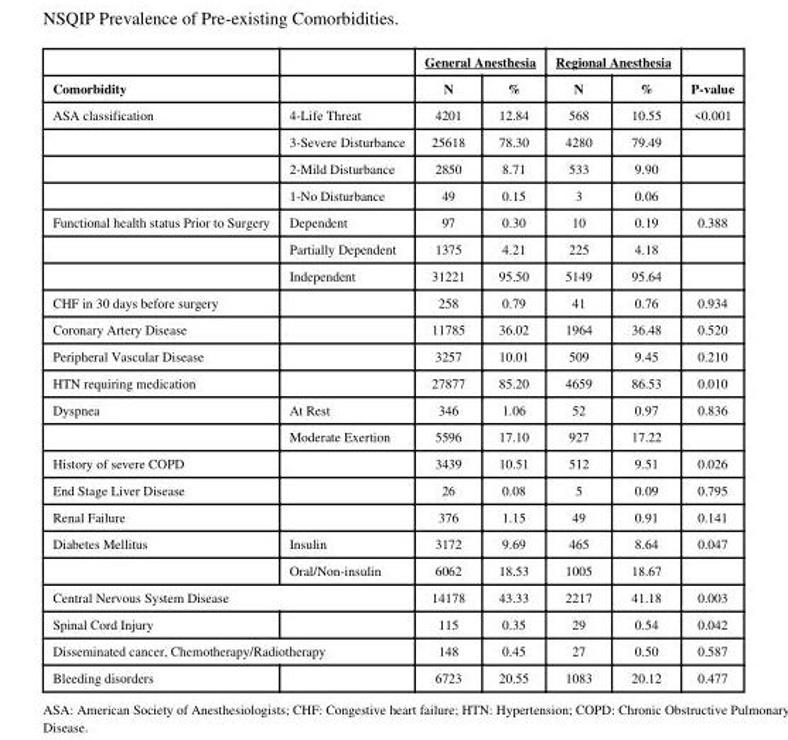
<table><thead><tr><td rowspan="2">Comorbidity</td><td rowspan="2"></td><td colspan="2">General Anesthesia</td><td colspan="2">Regional Anesthesia</td><td rowspan="2">P-value</td></tr><tr><td>N</td><td>%</td><td>N</td><td>%</td></tr></thead><tbody><tr><td rowspan="4">ASA classification</td><td>4-Life Threat</td><td>4201</td><td>12.84</td><td>568</td><td>10.55</td><td>&lt;0.001</td></tr><tr><td>3-Severe Disturbance</td><td>25618</td><td>78.30</td><td>4280</td><td>79.49</td><td></td></tr><tr><td>2-Mild Disturbance</td><td>2850</td><td>8.71</td><td>533</td><td>9.90</td><td></td></tr><tr><td>1-No Disturbance</td><td>49</td><td>0.15</td><td>3</td><td>0.06</td><td></td></tr><tr><td rowspan="3">Functional health status Prior to Surgery</td><td>Dependent</td><td>97</td><td>0.30</td><td>10</td><td>0.19</td><td>0.388</td></tr><tr><td>Partially Dependent</td><td>1375</td><td>4.21</td><td>225</td><td>4.18</td><td></td></tr><tr><td>Independent</td><td>31221</td><td>95.50</td><td>5149</td><td>95.64</td><td></td></tr><tr><td>CHF in 30 days before surgery</td><td></td><td>258</td><td>0.79</td><td>41</td><td>0.76</td><td>0.934</td></tr><tr><td>Coronary Artery Disease</td><td></td><td>11785</td><td>36.02</td><td>1964</td><td>36.48</td><td>0.520</td></tr><tr><td>Peripheral Vascular Disease</td><td></td><td>3257</td><td>10.01</td><td>509</td><td>9.45</td><td>0.210</td></tr><tr><td>HTN requiring medication</td><td></td><td>27877</td><td>85.20</td><td>4659</td><td>86.53</td><td>0.010</td></tr><tr><td rowspan="2">Dyspnea</td><td>At Rest</td><td>346</td><td>1.06</td><td>52</td><td>0.97</td><td>0.836</td></tr><tr><td>Moderate Exertion</td><td>5596</td><td>17.10</td><td>927</td><td>17.22</td><td></td></tr><tr><td>History of severe COPD</td><td></td><td>3439</td><td>10.51</td><td>512</td><td>9.51</td><td>0.026</td></tr><tr><td>End Stage Liver Disease</td><td></td><td>26</td><td>0.08</td><td>5</td><td>0.09</td><td>0.795</td></tr><tr><td>Renal Failure</td><td></td><td>376</td><td>1.15</td><td>49</td><td>0.91</td><td>0.141</td></tr><tr><td rowspan="2">Diabetes Mellitus</td><td>Insulin</td><td>3172</td><td>9.69</td><td>465</td><td>8.64</td><td>0.047</td></tr><tr><td>Oral/Non-insulin</td><td>6062</td><td>18.53</td><td>1005</td><td>18.67</td><td></td></tr><tr><td colspan="2">Central Nervous System Disease</td><td>14178</td><td>43.33</td><td>2217</td><td>41.18</td><td>0.003</td></tr><tr><td>Spinal Cord Injury</td><td></td><td>115</td><td>0.35</td><td>29</td><td>0.54</td><td>0.042</td></tr><tr><td colspan="2">Disseminated cancer, Chemotherapy/Radiotherapy</td><td>148</td><td>0.45</td><td>27</td><td>0.50</td><td>0.587</td></tr><tr><td>Bleeding disorders</td><td></td><td>6723</td><td>20.55</td><td>1083</td><td>20.12</td><td>0.477</td></tr></tbody></table>